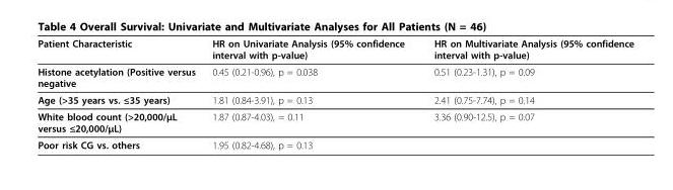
<table><thead><tr><td>Patient Characteristic</td><td>HR on Univariate Analysis (95% confidence interval with p-value)</td><td>HR on Multivariate Analysis (95% confidence interval with p-value)</td></tr></thead><tbody><tr><td>Histone acetylation (Positive versus negative</td><td>0.45 (0.21-0.96), p = 0.038</td><td>0.51 (0.23-1.31), p = 0.09</td></tr><tr><td>Age (&gt;35 years vs. ≤35 years)</td><td>1.81 (0.84-3.91), p = 0.13</td><td>2.41 (0.75-7.74), p = 0.14</td></tr><tr><td>White blood count (&gt;20,000/μL versus ≤20,000/μL)</td><td>1.87 (0.87-4.03), = 0.11</td><td>3.36 (0.90-12.5), p = 0.07</td></tr><tr><td>Poor risk CG vs. others</td><td>1.95 (0.82-4.68), p = 0.13</td><td></td></tr></tbody></table>